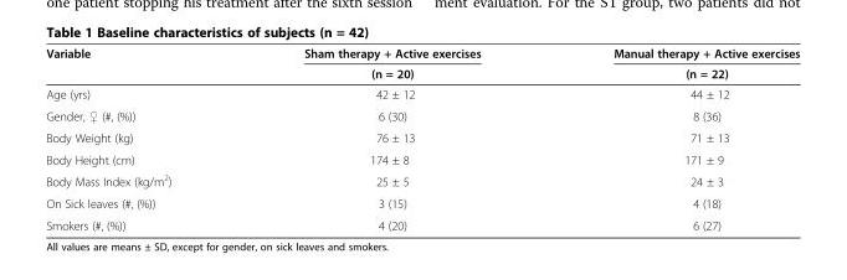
<table><thead><tr><td rowspan="2">Variable</td><td rowspan="2">Sham therapy + Active exercises (n = 20)</td><td rowspan="2">Manual therapy + Active exercises (n = 22)</td></tr><tr></tr></thead><tbody><tr><td>Age (yrs)</td><td>42 ± 12</td><td>44 ± 12</td></tr><tr><td>Gender, ♀ (#, (%))</td><td>6 (30)</td><td>8 (36)</td></tr><tr><td>Body Weight (kg)</td><td>76 ± 13</td><td>71 ± 13</td></tr><tr><td>Body Height (cm)</td><td>174 ± 8</td><td>171 ± 9</td></tr><tr><td>Body Mass Index (kg/m<sup>2</sup>)</td><td>25 ± 5</td><td>24 ± 3</td></tr><tr><td>On Sick leaves (#, (%))</td><td>3 (15)</td><td>4 (18)</td></tr><tr><td>Smokers (#, (%))</td><td>4 (20)</td><td>6 (27)</td></tr></tbody></table>